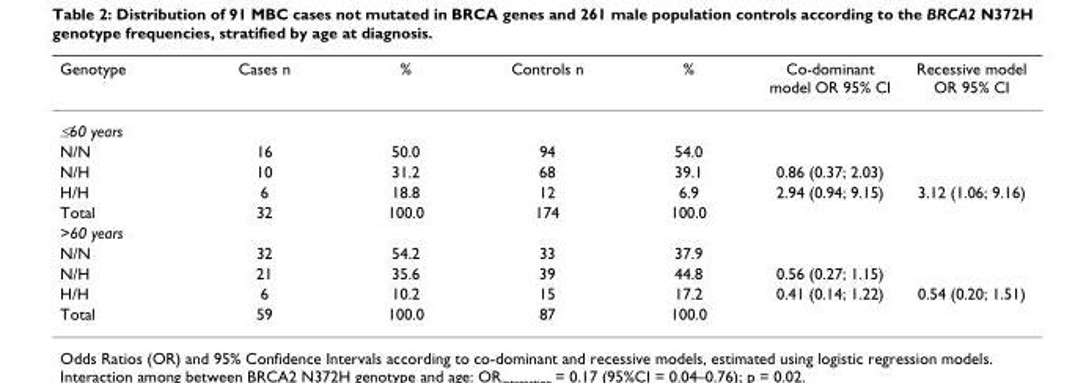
<table><thead><tr><td>Genotype</td><td>Cases n</td><td>%</td><td>Controls n</td><td>%</td><td>Co-dominant model OR 95% CI</td><td>Recessive model OR 95% CI</td></tr></thead><tbody><tr><td colspan="7">≤60 years</td></tr><tr><td>N/N</td><td>16</td><td>50.0</td><td>94</td><td>54.0</td><td></td><td></td></tr><tr><td>N/H</td><td>10</td><td>31.2</td><td>68</td><td>39.1</td><td>0.86 (0.37; 2.03)</td><td></td></tr><tr><td>H/H</td><td>6</td><td>18.8</td><td>12</td><td>6.9</td><td>2.94 (0.94; 9.15)</td><td>3.12 (1.06; 9.16)</td></tr><tr><td>Total</td><td>32</td><td>100.0</td><td>174</td><td>100.0</td><td></td><td></td></tr><tr><td colspan="7">&gt;60 years</td></tr><tr><td>N/N</td><td>32</td><td>54.2</td><td>33</td><td>37.9</td><td></td><td></td></tr><tr><td>N/H</td><td>21</td><td>35.6</td><td>39</td><td>44.8</td><td>0.56 (0.27; 1.15)</td><td></td></tr><tr><td>H/H</td><td>6</td><td>10.2</td><td>15</td><td>17.2</td><td>0.41 (0.14; 1.22)</td><td>0.54 (0.20; 1.51)</td></tr><tr><td>Total</td><td>59</td><td>100.0</td><td>87</td><td>100.0</td><td></td><td></td></tr></tbody></table>